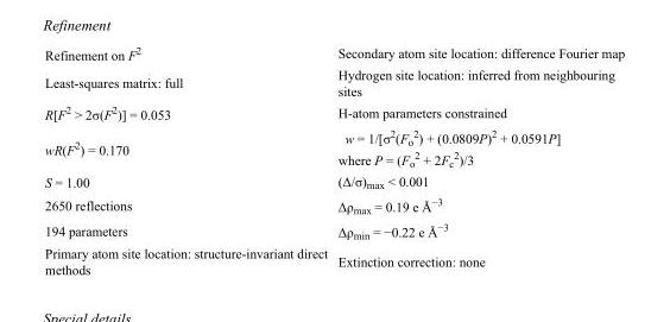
<table><tbody><tr><td>Refinement on F<sup>2</sup></td><td>Secondary atom site location: difference Fourier map</td></tr><tr><td>Least-squares matrix: full</td><td>Hydrogen site location: inferred from neighbouring sites</td></tr><tr><td>R[F<sup>2</sup> &gt; 2σ(F<sup>2</sup>)] = 0.053</td><td>H-atom parameters constrained</td></tr><tr><td>wR(F<sup>2</sup>) = 0.170</td><td>w = 1/[σ<sup>2</sup>(F<sub>o</sub> <sup>2</sup>) + (0.0809P)<sup>2</sup> + 0.0591P] where P = (F<sub>o</sub> <sup>2</sup> + 2F<sub>c</sub> <sup>2</sup>)/3</td></tr><tr><td>S = 1.00</td><td>(Δ/σ)<sub>max</sub> &lt; 0.001</td></tr><tr><td>2650 reflections</td><td>Δρ<sub>max</sub> = 0.19 e Å<sup>−3</sup></td></tr><tr><td>194 parameters</td><td>Δρ<sub>min</sub> = −0.22 e Å<sup>−3</sup></td></tr><tr><td>Primary atom site location: structure-invariant direct methods</td><td>Extinction correction: none</td></tr></tbody></table>